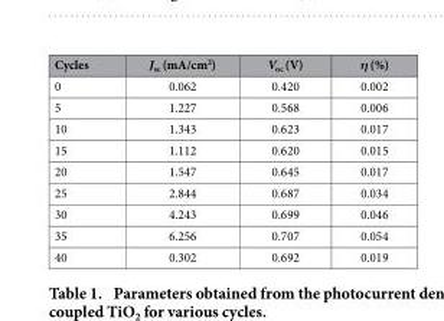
<table><thead><tr><td>Cycles</td><td>J<sub>sc</sub> (mA/cm<sup>2</sup>)</td><td>V<sub>oc</sub> (V)</td><td>η (%)</td></tr></thead><tbody><tr><td>0</td><td>0.062</td><td>0.420</td><td>0.002</td></tr><tr><td>5</td><td>1.227</td><td>0.568</td><td>0.006</td></tr><tr><td>10</td><td>1.343</td><td>0.623</td><td>0.017</td></tr><tr><td>15</td><td>1.112</td><td>0.620</td><td>0.015</td></tr><tr><td>20</td><td>1.547</td><td>0.645</td><td>0.017</td></tr><tr><td>25</td><td>2.844</td><td>0.687</td><td>0.034</td></tr><tr><td>30</td><td>4.243</td><td>0.699</td><td>0.046</td></tr><tr><td>35</td><td>6.256</td><td>0.707</td><td>0.054</td></tr><tr><td>40</td><td>0.302</td><td>0.692</td><td>0.019</td></tr></tbody></table>